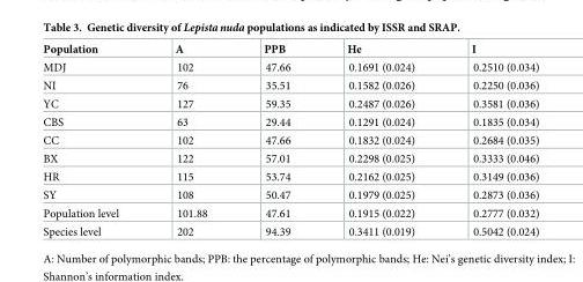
<table><thead><tr><td>Population</td><td>A</td><td>PPB</td><td>He</td><td>I</td></tr></thead><tbody><tr><td>MDJ</td><td>102</td><td>47.66</td><td>0.1691 (0.024)</td><td>0.2510 (0.034)</td></tr><tr><td>NI</td><td>76</td><td>35.51</td><td>0.1582 (0.026)</td><td>0.2250 (0.036)</td></tr><tr><td>YC</td><td>127</td><td>59.35</td><td>0.2487 (0.026)</td><td>0.3581 (0.036)</td></tr><tr><td>CBS</td><td>63</td><td>29.44</td><td>0.1291 (0.024)</td><td>0.1835 (0.034)</td></tr><tr><td>CC</td><td>102</td><td>47.66</td><td>0.1832 (0.024)</td><td>0.2684 (0.035)</td></tr><tr><td>BX</td><td>122</td><td>57.01</td><td>0.2298 (0.025)</td><td>0.3333 (0.046)</td></tr><tr><td>HR</td><td>115</td><td>53.74</td><td>0.2162 (0.025)</td><td>0.3149 (0.036)</td></tr><tr><td>SY</td><td>108</td><td>50.47</td><td>0.1979 (0.025)</td><td>0.2873 (0.036)</td></tr><tr><td>Population level</td><td>101.88</td><td>47.61</td><td>0.1915 (0.022)</td><td>0.2777 (0.032)</td></tr><tr><td>Species level</td><td>202</td><td>94.39</td><td>0.3411 (0.019)</td><td>0.5042 (0.024)</td></tr></tbody></table>